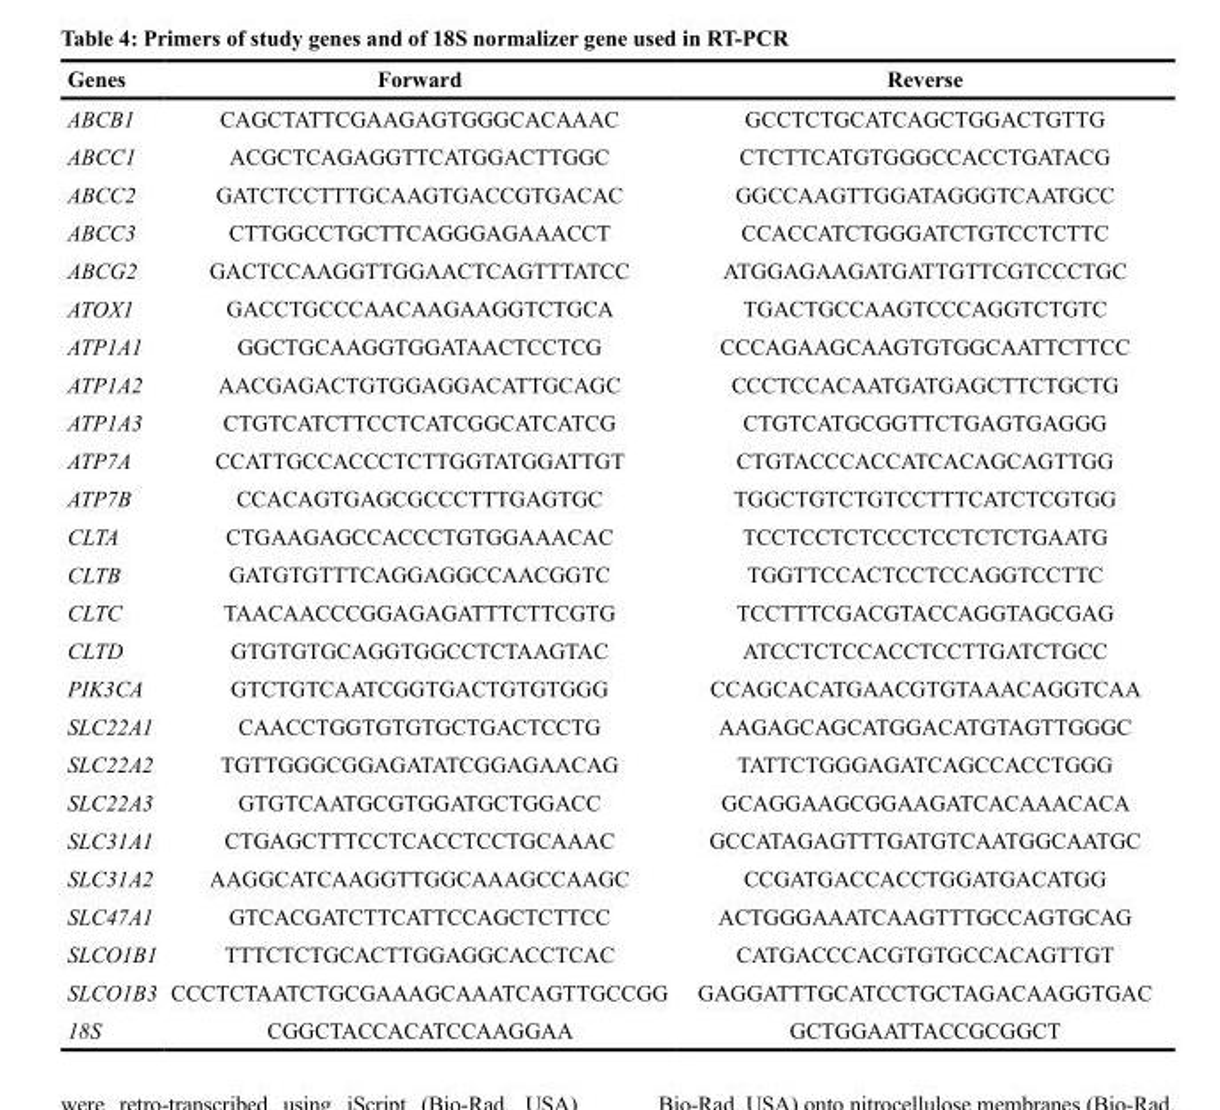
<table><thead><tr><td>Genes</td><td>Forward</td><td>Reverse</td></tr></thead><tbody><tr><td>ABCB1</td><td>CAGCTATTCGAAGAGTGGGCACAAAC</td><td>GCCTCTGCATCAGCTGGACTGTTG</td></tr><tr><td>ABCC1</td><td>ACGCTCAGAGGTTCATGGACTTGGC</td><td>CTCTTCATGTGGGCCACCTGATACG</td></tr><tr><td>ABCC2</td><td>GATCTCCTTTGCAAGTGACCGTGACAC</td><td>GGCCAAGTTGGATAGGGTCAATGCC</td></tr><tr><td>ABCC3</td><td>CTTGGCCTGCTTCAGGGAGAAACCT</td><td>CCACCATCTGGGATCTGTCCTCTTC</td></tr><tr><td>ABCG2</td><td>GACTCCAAGGTTGGAACTCAGTTTATCC</td><td>ATGGAGAAGATGATTGTTCGTCCCTGC</td></tr><tr><td>ATOX1</td><td>GACCTGCCCAACAAGAAGGTCTGCA</td><td>TGACTGCCAAGTCCCAGGTCTGTC</td></tr><tr><td>ATP1A1</td><td>GGCTGCAAGGTGGATAACTCCTCG</td><td>CCCAGAAGCAAGTGTGGCAATTCTTCC</td></tr><tr><td>ATP1A2</td><td>AACGAGACTGTGGAGGACATTGCAGC</td><td>CCCTCCACAATGATGAGCTTCTGCTG</td></tr><tr><td>ATP1A3</td><td>CTGTCATCTTCCTCATCGGCATCATCG</td><td>CTGTCATGCGGTTCTGAGTGAGGG</td></tr><tr><td>ATP7A</td><td>CCATTGCCACCCTCTTGGTATGGATTGT</td><td>CTGTACCCACCATCACAGCAGTTGG</td></tr><tr><td>ATP7B</td><td>CCACAGTGAGCGCCCTTTGAGTGC</td><td>TGGCTGTCTGTCCTTTCATCTCGTGG</td></tr><tr><td>CLTA</td><td>CTGAAGAGCCACCCTGTGGAAACAC</td><td>TCCTCCTCTCCCTCCTCTCTGAATG</td></tr><tr><td>CLTB</td><td>GATGTGTTTCAGGAGGCCAACGGTC</td><td>TGGTTCCACTCCTCCAGGTCCTTC</td></tr><tr><td>CLTC</td><td>TAACAACCCGGAGAGATTTCTTCGTG</td><td>TCCTTTCGACGTACCAGGTAGCGAG</td></tr><tr><td>CLTD</td><td>GTGTGTGCAGGTGGCCTCTAAGTAC</td><td>ATCCTCTCCACCTCCTTGATCTGCC</td></tr><tr><td>PIK3CA</td><td>GTCTGTCAATCGGTGACTGTGTGGG</td><td>CCAGCACATGAACGTGTAAACAGGTCAA</td></tr><tr><td>SLC22A1</td><td>CAACCTGGTGTGTGCTGACTCCTG</td><td>AAGAGCAGCATGGACATGTAGTTGGGC</td></tr><tr><td>SLC22A2</td><td>TGTTGGGCGGAGATATCGGAGAACAG</td><td>TATTCTGGGAGATCAGCCACCTGGG</td></tr><tr><td>SLC22A3</td><td>GTGTCAATGCGTGGATGCTGGACC</td><td>GCAGGAAGCGGAAGATCACAAACACA</td></tr><tr><td>SLC31A1</td><td>CTGAGCTTTCCTCACCTCCTGCAAAC</td><td>GCCATAGAGTTTGATGTCAATGGCAATGC</td></tr><tr><td>SLC31A2</td><td>AAGGCATCAAGGTTGGCAAAGCCAAGC</td><td>CCGATGACCACCTGGATGACATGG</td></tr><tr><td>SLC47A1</td><td>GTCACGATCTTCATTCCAGCTCTTCC</td><td>ACTGGGAAATCAAGTTTGCCAGTGCAG</td></tr><tr><td>SLCO1B1</td><td>TTTCTCTGCACTTGGAGGCACCTCAC</td><td>CATGACCCACGTGTGCCACAGTTGT</td></tr><tr><td>SLCO1B3</td><td>CCCTCTAATCTGCGAAAGCAAATCAGTTGCCGG</td><td>GAGGATTTGCATCCTGCTAGACAAGGTGAC</td></tr><tr><td>18S</td><td>CGGCTACCACATCCAAGGAA</td><td>GCTGGAATTACCGCGGCT</td></tr></tbody></table>